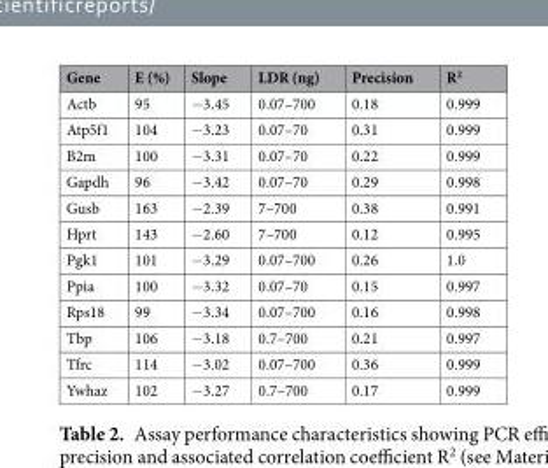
<table><thead><tr><td>Gene</td><td>E (%)</td><td>Slope</td><td>LDR (ng)</td><td>Precision</td><td>R<sup>2</sup></td></tr></thead><tbody><tr><td>Actb</td><td>95</td><td>−3.45</td><td>0.07–700</td><td>0.18</td><td>0.999</td></tr><tr><td>Atp5f1</td><td>104</td><td>−3.23</td><td>0.07–70</td><td>0.31</td><td>0.999</td></tr><tr><td>B2m</td><td>100</td><td>−3.31</td><td>0.07–70</td><td>0.22</td><td>0.999</td></tr><tr><td>Gapdh</td><td>96</td><td>−3.42</td><td>0.07–70</td><td>0.29</td><td>0.998</td></tr><tr><td>Gusb</td><td>163</td><td>−2.39</td><td>7–700</td><td>0.38</td><td>0.991</td></tr><tr><td>Hprt</td><td>143</td><td>−2.60</td><td>7–700</td><td>0.12</td><td>0.995</td></tr><tr><td>Pgk1</td><td>101</td><td>−3.29</td><td>0.07–700</td><td>0.26</td><td>1.0</td></tr><tr><td>Ppia</td><td>100</td><td>−3.32</td><td>0.07–70</td><td>0.15</td><td>0.997</td></tr><tr><td>Rps18</td><td>99</td><td>−3.34</td><td>0.07–700</td><td>0.16</td><td>0.998</td></tr><tr><td>Tbp</td><td>106</td><td>−3.18</td><td>0.7–700</td><td>0.21</td><td>0.997</td></tr><tr><td>Tfrc</td><td>114</td><td>−3.02</td><td>0.07–700</td><td>0.36</td><td>0.999</td></tr><tr><td>Ywhaz</td><td>102</td><td>−3.27</td><td>0.7–700</td><td>0.17</td><td>0.999</td></tr></tbody></table>